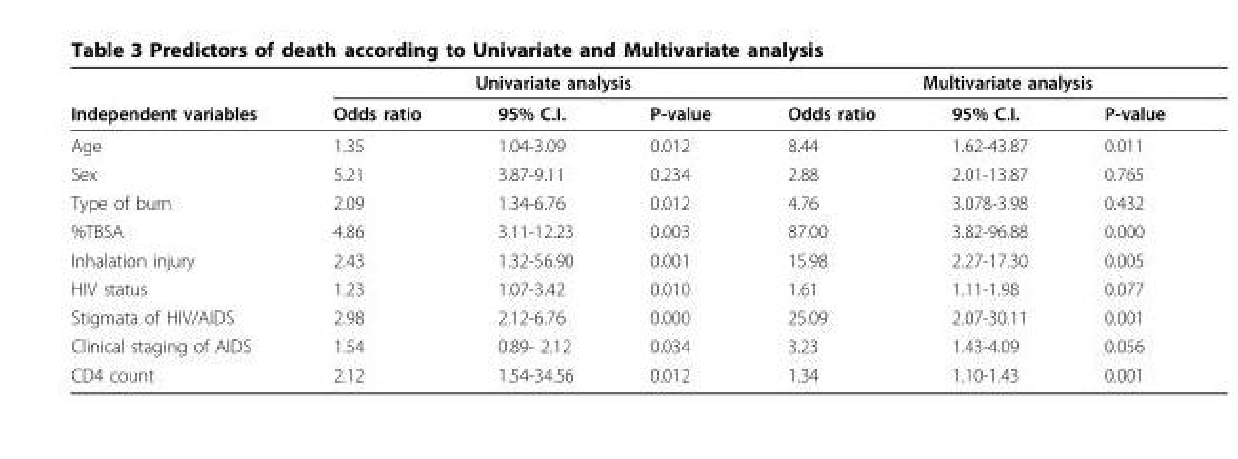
<table><thead><tr><td rowspan="2">Independent variables</td><td colspan="3">Univariate analysis</td><td colspan="3">Multivariate analysis</td></tr><tr><td>Odds ratio</td><td>95% C.I.</td><td>P-value</td><td>Odds ratio</td><td>95% C.I.</td><td>P-value</td></tr></thead><tbody><tr><td>Age</td><td>1.35</td><td>1.04-3.09</td><td>0.012</td><td>8.44</td><td>1.62-43.87</td><td>0.011</td></tr><tr><td>Sex</td><td>5.21</td><td>3.87-9.11</td><td>0.234</td><td>2.88</td><td>2.01-13.87</td><td>0.765</td></tr><tr><td>Type of burn</td><td>2.09</td><td>1.34-6.76</td><td>0.012</td><td>4.76</td><td>3.078-3.98</td><td>0.432</td></tr><tr><td>%TBSA</td><td>4.86</td><td>3.11-12.23</td><td>0.003</td><td>87.00</td><td>3.82-96.88</td><td>0.000</td></tr><tr><td>Inhalation injury</td><td>2.43</td><td>1.32-56.90</td><td>0.001</td><td>15.98</td><td>2.27-17.30</td><td>0.005</td></tr><tr><td>HIV status</td><td>1.23</td><td>1.07-3.42</td><td>0.010</td><td>1.61</td><td>1.11-1.98</td><td>0.077</td></tr><tr><td>Stigmata of HIV/AIDS</td><td>2.98</td><td>2.12-6.76</td><td>0.000</td><td>25.09</td><td>2.07-30.11</td><td>0.001</td></tr><tr><td>Clinical staging of AIDS</td><td>1.54</td><td>0.89- 2.12</td><td>0.034</td><td>3.23</td><td>1.43-4.09</td><td>0.056</td></tr><tr><td>CD4 count</td><td>2.12</td><td>1.54-34.56</td><td>0.012</td><td>1.34</td><td>1.10-1.43</td><td>0.001</td></tr></tbody></table>